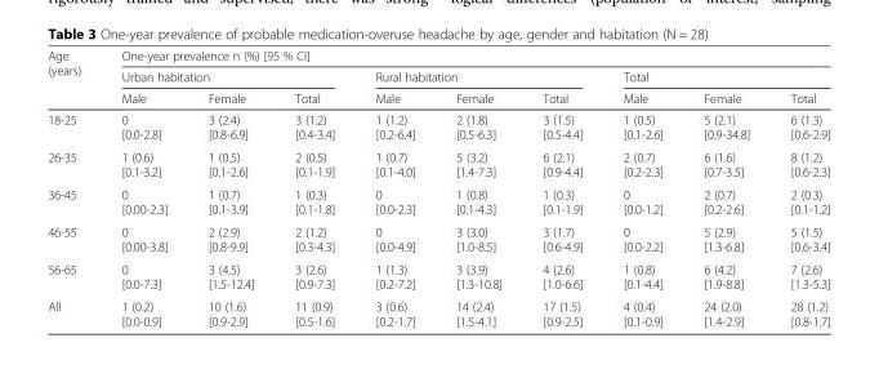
<table><thead><tr><td rowspan="3">Age (years)</td><td colspan="9">One-year prevalence n (%) [95 % CI]</td></tr><tr><td colspan="3">Urban habitation</td><td colspan="3">Rural habitation</td><td colspan="3">Total</td></tr><tr><td>Male</td><td>Female</td><td>Total</td><td>Male</td><td>Female</td><td>Total</td><td>Male</td><td>Female</td><td>Total</td></tr></thead><tbody><tr><td>18-25</td><td>0 [0.0-2.8]</td><td>3 (2.4) [0.8-6.9]</td><td>3 (1.2) [0.4-3.4]</td><td>1 (1.2) [0.2-6.4]</td><td>2 (1.8) [0.5-6.3]</td><td>3 (1.5) [0.5-4.4]</td><td>1 (0.5) [0.1-2.6]</td><td>5 (2.1) [0.9-34.8]</td><td>6 (1.3) [0.6-2.9]</td></tr><tr><td>26-35</td><td>1 (0.6) [0.1-3.2]</td><td>1 (0.5) [0.1-2.6]</td><td>2 (0.5) [0.1-1.9]</td><td>1 (0.7) [0.1-4.0]</td><td>5 (3.2) [1.4-7.3]</td><td>6 (2.1) [0.9-4.4]</td><td>2 (0.7) [0.2-2.3]</td><td>6 (1.6) [0.7-3.5]</td><td>8 (1.2) [0.6-2.3]</td></tr><tr><td>36-45</td><td>0 [0.00-2.3]</td><td>1 (0.7) [0.1-3.9]</td><td>1 (0.3) [0.1-1.8]</td><td>0 [0.0-2.3]</td><td>1 (0.8) [0.1-4.3]</td><td>1 (0.3) [0.1-1.9]</td><td>0 [0.0-1.2]</td><td>2 (0.7) [0.2-2.6]</td><td>2 (0.3) [0.1-1.2]</td></tr><tr><td>46-55</td><td>0 [0.00-3.8]</td><td>2 (2.9) [0.8-9.9]</td><td>2 (1.2) [0.3-4.3]</td><td>0 [0.0-4.9]</td><td>3 (3.0) [1.0-8.5]</td><td>3 (1.7) [0.6-4.9]</td><td>0 [0.0-2.2]</td><td>5 (2.9) [1.3-6.8]</td><td>5 (1.5) [0.6-3.4]</td></tr><tr><td>56-65</td><td>0 [0.0-7.3]</td><td>3 (4.5) [1.5-12.4]</td><td>3 (2.6) [0.9-7.3]</td><td>1 (1.3) [0.2-7.2]</td><td>3 (3.9) [1.3-10.8]</td><td>4 (2.6) [1.0-6.6]</td><td>1 (0.8) [0.1-4.4]</td><td>6 (4.2) [1.9-8.8]</td><td>7 (2.6) [1.3-5.3]</td></tr><tr><td>All</td><td>1 (0.2) [0.0-0.9]</td><td>10 (1.6) [0.9-2.9]</td><td>11 (0.9) [0.5-1.6]</td><td>3 (0.6) [0.2-1.7]</td><td>14 (2.4) [1.5-4.1]</td><td>17 (1.5) [0.9-2.5]</td><td>4 (0.4) [0.1-0.9]</td><td>24 (2.0) [1.4-2.9]</td><td>28 (1.2) [0.8-1.7]</td></tr></tbody></table>